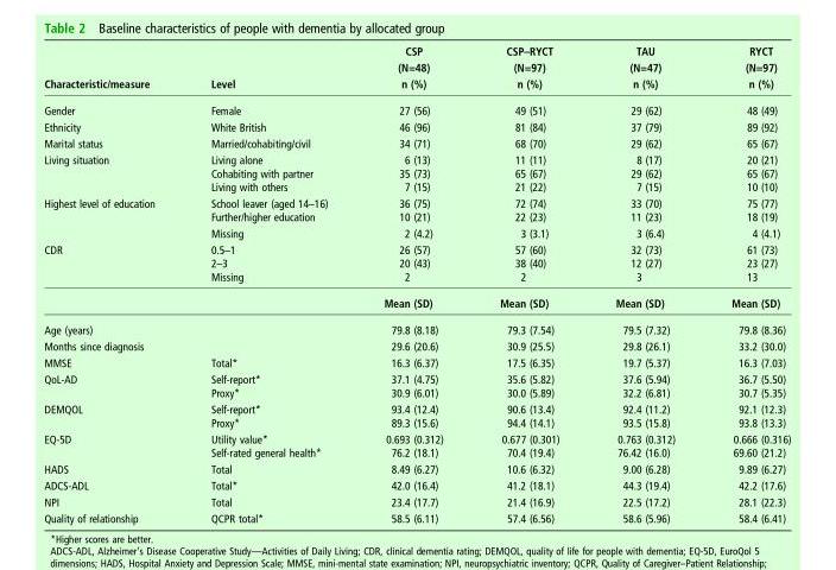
<table><thead><tr><td rowspan="3">Characteristic/measure</td><td rowspan="3">Level</td><td rowspan="3">CSP (N=48) n (%)</td><td rowspan="3">CSP–RYCT (N=97) n (%)</td><td rowspan="3">TAU (N=47) n (%)</td><td rowspan="3">RYCT (N=97) n (%)</td></tr><tr></tr><tr></tr></thead><tbody><tr><td>Gender</td><td>Female</td><td>27 (56)</td><td>49 (51)</td><td>29 (62)</td><td>48 (49)</td></tr><tr><td>Ethnicity</td><td>White British</td><td>46 (96)</td><td>81 (84)</td><td>37 (79)</td><td>89 (92)</td></tr><tr><td>Marital status</td><td>Married/cohabiting/civil</td><td>34 (71)</td><td>68 (70)</td><td>29 (62)</td><td>65 (67)</td></tr><tr><td rowspan="3">Living situation</td><td>Living alone</td><td>6 (13)</td><td>11 (11)</td><td>8 (17)</td><td>20 (21)</td></tr><tr><td>Cohabiting with partner</td><td>35 (73)</td><td>65 (67)</td><td>29 (62)</td><td>65 (67)</td></tr><tr><td>Living with others</td><td>7 (15)</td><td>21 (22)</td><td>7 (15)</td><td>10 (10)</td></tr><tr><td rowspan="3">Highest level of education</td><td>School leaver (aged 14–16)</td><td>36 (75)</td><td>72 (74)</td><td>33 (70)</td><td>75 (77)</td></tr><tr><td>Further/higher education</td><td>10 (21)</td><td>22 (23)</td><td>11 (23)</td><td>18 (19)</td></tr><tr><td>Missing</td><td>2 (4.2)</td><td>3 (3.1)</td><td>3 (6.4)</td><td>4 (4.1)</td></tr><tr><td rowspan="4">CDR</td><td>0.5–1</td><td>26 (57)</td><td>57 (60)</td><td>32 (73)</td><td>61 (73)</td></tr><tr><td>2–3</td><td>20 (43)</td><td>38 (40)</td><td>12 (27)</td><td>23 (27)</td></tr><tr><td>Missing</td><td>2</td><td>2</td><td>3</td><td>13</td></tr><tr><td></td><td>Mean (SD)</td><td>Mean (SD)</td><td>Mean (SD)</td><td>Mean (SD)</td></tr><tr><td>Age (years)</td><td></td><td>79.8 (8.18)</td><td>79.3 (7.54)</td><td>79.5 (7.32)</td><td>79.8 (8.36)</td></tr><tr><td>Months since diagnosis</td><td></td><td>29.6 (20.6)</td><td>30.9 (25.5)</td><td>29.8 (26.1)</td><td>33.2 (30.0)</td></tr><tr><td>MMSE</td><td>Total*</td><td>16.3 (6.37)</td><td>17.5 (6.35)</td><td>19.7 (5.37)</td><td>16.3 (7.03)</td></tr><tr><td rowspan="2">QoL-AD</td><td>Self-report*</td><td>37.1 (4.75)</td><td>35.6 (5.82)</td><td>37.6 (5.94)</td><td>36.7 (5.50)</td></tr><tr><td>Proxy*</td><td>30.9 (6.01)</td><td>30.0 (5.89)</td><td>32.2 (6.81)</td><td>30.7 (5.35)</td></tr><tr><td rowspan="2">DEMQOL</td><td>Self-report*</td><td>93.4 (12.4)</td><td>90.6 (13.4)</td><td>92.4 (11.2)</td><td>92.1 (12.3)</td></tr><tr><td>Proxy*</td><td>89.3 (15.6)</td><td>94.4 (14.1)</td><td>93.5 (15.8)</td><td>93.8 (13.3)</td></tr><tr><td rowspan="2">EQ-5D</td><td>Utility value*</td><td>0.693 (0.312)</td><td>0.677 (0.301)</td><td>0.763 (0.312)</td><td>0.666 (0.316)</td></tr><tr><td>Self-rated general health*</td><td>76.2 (18.1)</td><td>70.4 (19.4)</td><td>76.42 (16.0)</td><td>69.60 (21.2)</td></tr><tr><td>HADS</td><td>Total</td><td>8.49 (6.27)</td><td>10.6 (6.32)</td><td>9.00 (6.28)</td><td>9.89 (6.27)</td></tr><tr><td>ADCS-ADL</td><td>Total*</td><td>42.0 (16.4)</td><td>41.2 (18.1)</td><td>44.3 (19.4)</td><td>42.2 (17.6)</td></tr><tr><td>NPI</td><td>Total</td><td>23.4 (17.7)</td><td>21.4 (16.9)</td><td>22.5 (17.2)</td><td>28.1 (22.3)</td></tr><tr><td>Quality of relationship</td><td>QCPR total*</td><td>58.5 (6.11)</td><td>57.4 (6.56)</td><td>58.6 (5.96)</td><td>58.4 (6.41)</td></tr></tbody></table>